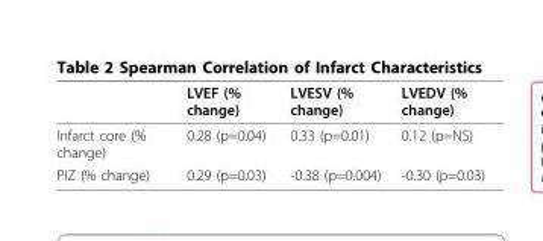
<table><thead><tr><td colspan="4">Table 2 Spearman Correlation of Infarct Characteristics</td></tr><tr><td></td><td>LVEF (% change)</td><td>LVESV (% change)</td><td>LVEDV (% change)</td></tr></thead><tbody><tr><td>Infarct core (% change)</td><td>0.28 (p=0.04)</td><td>0.33 (p=0.01)</td><td>0.12 (p=NS)</td></tr><tr><td>PIZ (% change)</td><td>0.29 (p=0.03)</td><td>-0.38 (p=0.004)</td><td>-0.30 (p=0.03)</td></tr></tbody></table>